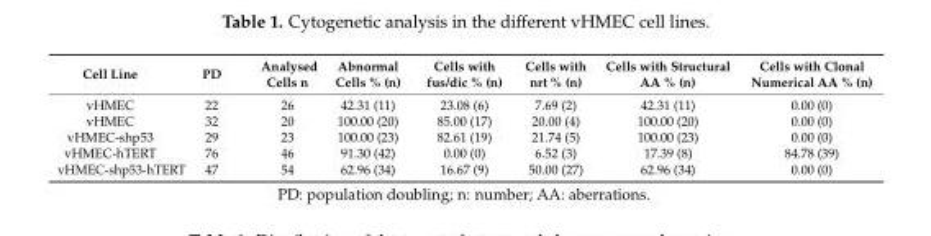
<table><thead><tr><td>Cell Line</td><td>PD</td><td>Analysed Cells n</td><td>Abnormal Cells % (n)</td><td>Cells with fus/dic % (n)</td><td>Cells with nrt % (n)</td><td>Cells with Structural AA % (n)</td><td>Cells with Clonal Numerical AA % (n)</td></tr></thead><tbody><tr><td>vHMEC</td><td>22</td><td>26</td><td>42.31 (11)</td><td>23.08 (6)</td><td>7.69 (2)</td><td>42.31 (11)</td><td>0.00 (0)</td></tr><tr><td>vHMEC</td><td>32</td><td>20</td><td>100.00 (20)</td><td>85.00 (17)</td><td>20.00 (4)</td><td>100.00 (20)</td><td>0.00 (0)</td></tr><tr><td>vHMEC-shp53</td><td>29</td><td>23</td><td>100.00 (23)</td><td>82.61 (19)</td><td>21.74 (5)</td><td>100.00 (23)</td><td>0.00 (0)</td></tr><tr><td>vHMEC-hTERT</td><td>76</td><td>46</td><td>91.30 (42)</td><td>0.00 (0)</td><td>6.52 (3)</td><td>17.39 (8)</td><td>84.78 (39)</td></tr><tr><td>vHMEC-shp53-hTERT</td><td>47</td><td>54</td><td>62.96 (34)</td><td>16.67 (9)</td><td>50.00 (27)</td><td>62.96 (34)</td><td>0.00 (0)</td></tr></tbody></table>